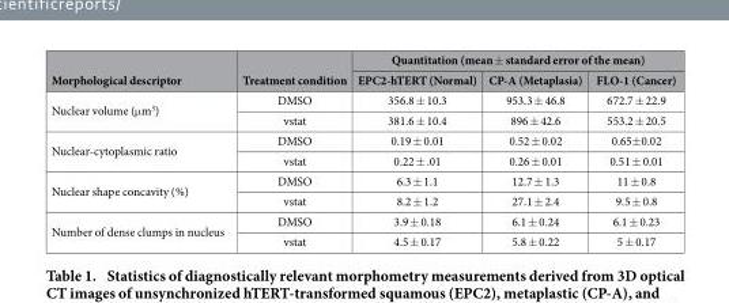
<table><thead><tr><td rowspan="2">Morphological descriptor</td><td rowspan="2">Treatment condition</td><td colspan="3">Quantitation (mean ± standard error of the mean)</td></tr><tr><td>EPC2-hTERT (Normal)</td><td>CP-A (Metaplasia)</td><td>FLO-1 (Cancer)</td></tr></thead><tbody><tr><td rowspan="2">Nuclear volume (μ m<sup>3</sup>)</td><td>DMSO</td><td>356.8 ± 10.3</td><td>953.3 ± 46.8</td><td>672.7 ± 22.9</td></tr><tr><td>vstat</td><td>381.6 ± 10.4</td><td>896 ± 42.6</td><td>553.2 ± 20.5</td></tr><tr><td rowspan="2">Nuclear-cytoplasmic ratio</td><td>DMSO</td><td>0.19 ± 0.01</td><td>0.52 ± 0.02</td><td>0.65± 0.02</td></tr><tr><td>vstat</td><td>0.22 ± .01</td><td>0.26 ± 0.01</td><td>0.51 ± 0.01</td></tr><tr><td rowspan="2">Nuclear shape concavity (%)</td><td>DMSO</td><td>6.3 ± 1.1</td><td>12.7 ± 1.3</td><td>11 ± 0.8</td></tr><tr><td>vstat</td><td>8.2 ± 1.2</td><td>27.1 ± 2.4</td><td>9.5 ± 0.8</td></tr><tr><td rowspan="2">Number of dense clumps in nucleus</td><td>DMSO</td><td>3.9 ± 0.18</td><td>6.1 ± 0.24</td><td>6.1 ± 0.23</td></tr><tr><td>vstat</td><td>4.5 ± 0.17</td><td>5.8 ± 0.22</td><td>5 ± 0.17</td></tr></tbody></table>